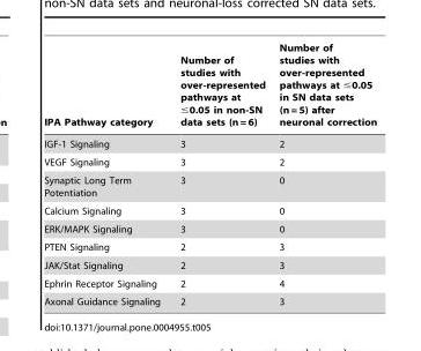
<table><thead><tr><td>IPA Pathway category</td><td>Number of studies with over-represented pathways at ≤0.05 in non-SN data sets (n = 6)</td><td>Number of studies with over-represented pathways at ≤0.05 in SN data sets (n = 5) after neuronal correction</td></tr></thead><tbody><tr><td>IGF-1 Signaling</td><td>3</td><td>2</td></tr><tr><td>VEGF Signaling</td><td>3</td><td>2</td></tr><tr><td>Synaptic Long Term Potentiation</td><td>3</td><td>0</td></tr><tr><td>Calcium Signaling</td><td>3</td><td>0</td></tr><tr><td>ERK/MAPK Signaling</td><td>3</td><td>0</td></tr><tr><td>PTEN Signaling</td><td>2</td><td>3</td></tr><tr><td>JAK/Stat Signaling</td><td>2</td><td>3</td></tr><tr><td>Ephrin Receptor Signaling</td><td>2</td><td>4</td></tr><tr><td>Axonal Guidance Signaling</td><td>2</td><td>3</td></tr></tbody></table>